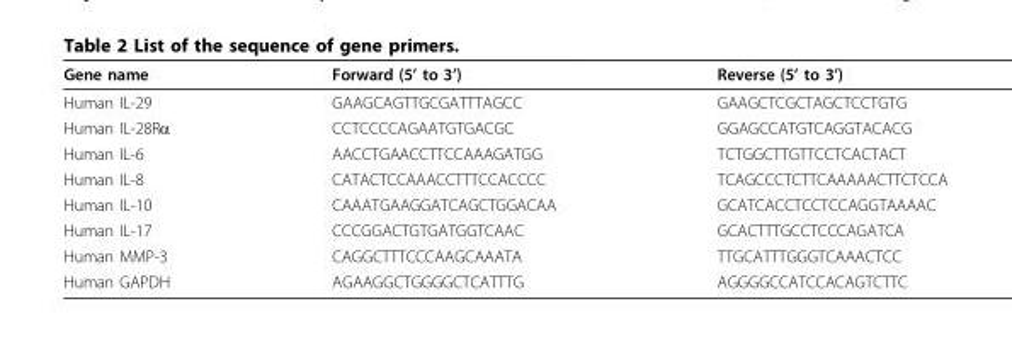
<table><thead><tr><td>Gene name</td><td>Forward (5’ to 3’)</td><td>Reverse (5’ to 3’)</td></tr></thead><tbody><tr><td>Human IL-29</td><td>GAAGCAGTTGCGATTTAGCC</td><td>GAAGCTCGCTAGCTCCTGTG</td></tr><tr><td>Human IL-28Rα</td><td>CCTCCCCAGAATGTGACGC</td><td>GGAGCCATGTCAGGTACACG</td></tr><tr><td>Human IL-6</td><td>AACCTGAACCTTCCAAAGATGG</td><td>TCTGGCTTGTTCCTCACTACT</td></tr><tr><td>Human IL-8</td><td>CATACTCCAAACCTTTCCACCCC</td><td>TCAGCCCTCTTCAAAAACTTCTCCA</td></tr><tr><td>Human IL-10</td><td>CAAATGAAGGATCAGCTGGACAA</td><td>GCATCACCTCCTCCAGGTAAAAC</td></tr><tr><td>Human IL-17</td><td>CCCGGACTGTGATGGTCAAC</td><td>GCACTTTGCCTCCCAGATCA</td></tr><tr><td>Human MMP-3</td><td>CAGGCTTTCCCAAGCAAATA</td><td>TTGCATTTGGGTCAAACTCC</td></tr><tr><td>Human GAPDH</td><td>AGAAGGCTGGGGCTCATTTG</td><td>AGGGGCCATCCACAGTCTTC</td></tr></tbody></table>